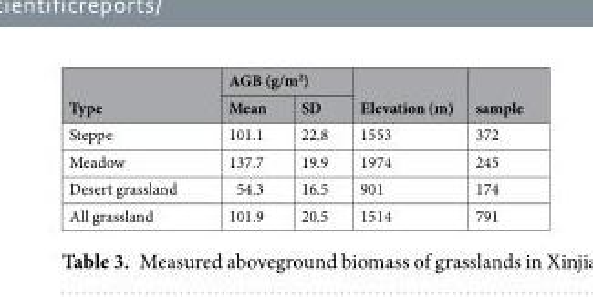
<table><thead><tr><td rowspan="2">Type</td><td colspan="2">AGB (g/m<sup>2</sup>)</td><td rowspan="2">Elevation (m)</td><td rowspan="2">sample</td></tr><tr><td>Mean</td><td>SD</td></tr></thead><tbody><tr><td>Steppe</td><td>101.1</td><td>22.8</td><td>1553</td><td>372</td></tr><tr><td>Meadow</td><td>137.7</td><td>19.9</td><td>1974</td><td>245</td></tr><tr><td>Desert grassland</td><td>54.3</td><td>16.5</td><td>901</td><td>174</td></tr><tr><td>All grassland</td><td>101.9</td><td>20.5</td><td>1514</td><td>791</td></tr></tbody></table>